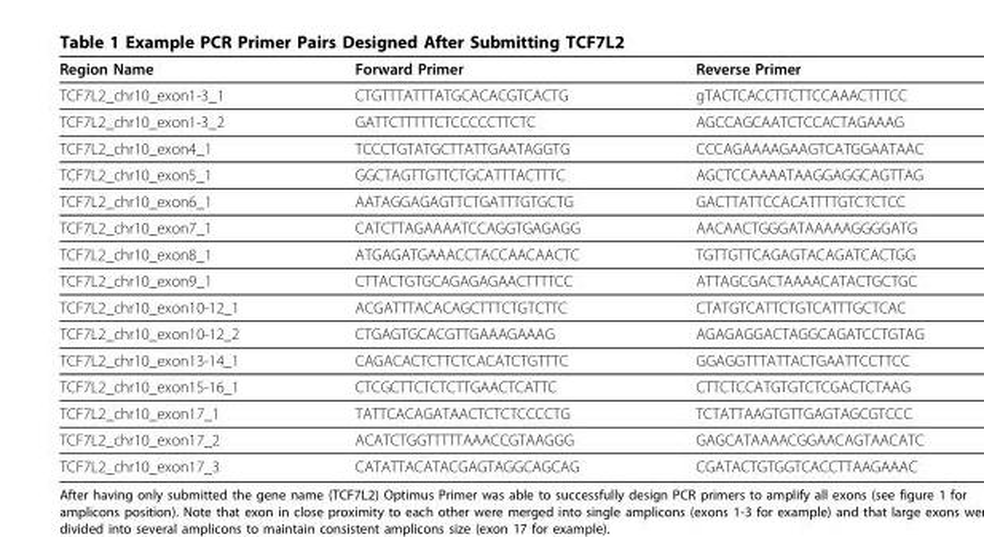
<table><thead><tr><td>Region Name</td><td>Forward Primer</td><td>Reverse Primer</td></tr></thead><tbody><tr><td>TCF7L2_chr10_exon1-3_1</td><td>CTGTTTATTTATGCACACGTCACTG</td><td>gTACTCACCTTCTTCCAAACTTTCC</td></tr><tr><td>TCF7L2_chr10_exon1-3_2</td><td>GATTCTTTTTCTCCCCCTTCTC</td><td>AGCCAGCAATCTCCACTAGAAAG</td></tr><tr><td>TCF7L2_chr10_exon4_1</td><td>TCCCTGTATGCTTATTGAATAGGTG</td><td>CCCAGAAAAGAAGTCATGGAATAAC</td></tr><tr><td>TCF7L2_chr10_exon5_1</td><td>GGCTAGTTGTTCTGCATTTACTTTC</td><td>AGCTCCAAAATAAGGAGGCAGTTAG</td></tr><tr><td>TCF7L2_chr10_exon6_1</td><td>AATAGGAGAGTTCTGATTTGTGCTG</td><td>GACTTATTCCACATTTTGTCTCTCC</td></tr><tr><td>TCF7L2_chr10_exon7_1</td><td>CATCTTAGAAAATCCAGGTGAGAGG</td><td>AACAACTGGGATAAAAAGGGGATG</td></tr><tr><td>TCF7L2_chr10_exon8_1</td><td>ATGAGATGAAACCTACCAACAACTC</td><td>TGTTGTTCAGAGTACAGATCACTGG</td></tr><tr><td>TCF7L2_chr10_exon9_1</td><td>CTTACTGTGCAGAGAGAACTTTTCC</td><td>ATTAGCGACTAAAACATACTGCTGC</td></tr><tr><td>TCF7L2_chr10_exon10-12_1</td><td>ACGATTTACACAGCTTTCTGTCTTC</td><td>CTATGTCATTCTGTCATTTGCTCAC</td></tr><tr><td>TCF7L2_chr10_exon10-12_2</td><td>CTGAGTGCACGTTGAAAGAAAG</td><td>AGAGAGGACTAGGCAGATCCTGTAG</td></tr><tr><td>TCF7L2_chr10_exon13-14_1</td><td>CAGACACTCTTCTCACATCTGTTTC</td><td>GGAGGTTTATTACTGAATTCCTTCC</td></tr><tr><td>TCF7L2_chr10_exon15-16_1</td><td>CTCGCTTCTCTCTTGAACTCATTC</td><td>CTTCTCCATGTGTCTCGACTCTAAG</td></tr><tr><td>TCF7L2_chr10_exon17_1</td><td>TATTCACAGATAACTCTCTCCCCTG</td><td>TCTATTAAGTGTTGAGTAGCGTCCC</td></tr><tr><td>TCF7L2_chr10_exon17_2</td><td>ACATCTGGTTTTTAAACCGTAAGGG</td><td>GAGCATAAAACGGAACAGTAACATC</td></tr><tr><td>TCF7L2_chr10_exon17_3</td><td>CATATTACATACGAGTAGGCAGCAG</td><td>CGATACTGTGGTCACCTTAAGAAAC</td></tr></tbody></table>